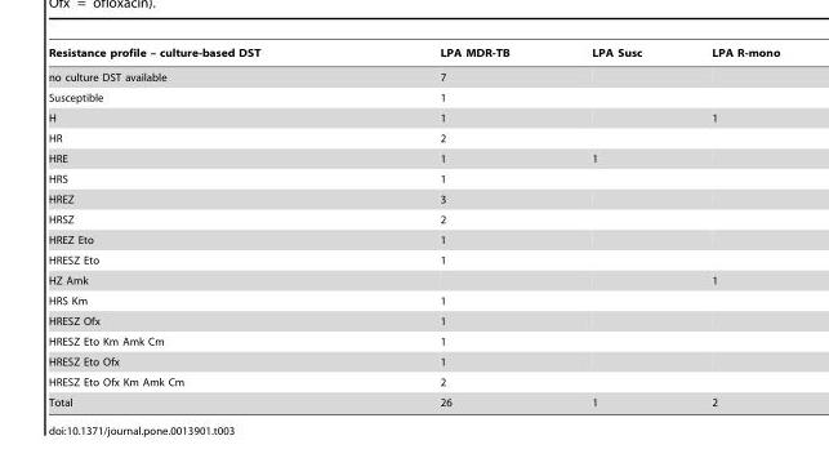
<table><thead><tr><td>Resistance profile – culture-based DST</td><td>LPA MDR-TB</td><td>LPA Susc</td><td>LPA R-mono</td></tr></thead><tbody><tr><td>no culture DST available</td><td>7</td><td></td><td></td></tr><tr><td>Susceptible</td><td>1</td><td></td><td></td></tr><tr><td>H</td><td>1</td><td></td><td>1</td></tr><tr><td>HR</td><td>2</td><td></td><td></td></tr><tr><td>HRE</td><td>1</td><td>1</td><td></td></tr><tr><td>HRS</td><td>1</td><td></td><td></td></tr><tr><td>HREZ</td><td>3</td><td></td><td></td></tr><tr><td>HRSZ</td><td>2</td><td></td><td></td></tr><tr><td>HREZ Eto</td><td>1</td><td></td><td></td></tr><tr><td>HRESZ Eto</td><td>1</td><td></td><td></td></tr><tr><td>HZ Amk</td><td></td><td></td><td>1</td></tr><tr><td>HRS Km</td><td>1</td><td></td><td></td></tr><tr><td>HRESZ Ofx</td><td>1</td><td></td><td></td></tr><tr><td>HRESZ Eto Km Amk Cm</td><td>1</td><td></td><td></td></tr><tr><td>HRESZ Eto Ofx</td><td>1</td><td></td><td></td></tr><tr><td>HRESZ Eto Ofx Km Amk Cm</td><td>2</td><td></td><td></td></tr><tr><td>Total</td><td>26</td><td>1</td><td>2</td></tr></tbody></table>